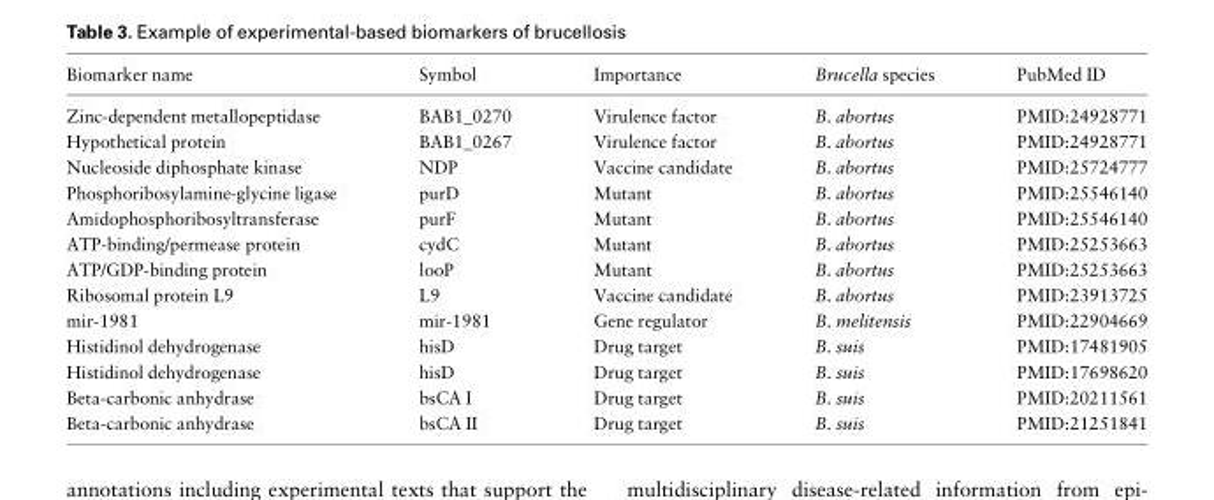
<table><thead><tr><td>Biomarker name</td><td>Symbol</td><td>Importance</td><td>Brucella species</td><td>PubMed ID</td></tr></thead><tbody><tr><td>Zinc-dependent metallopeptidase</td><td>BAB1_0270</td><td>Virulence factor</td><td>B. abortus</td><td>PMID:24928771</td></tr><tr><td>Hypothetical protein</td><td>BAB1_0267</td><td>Virulence factor</td><td>B. abortus</td><td>PMID:24928771</td></tr><tr><td>Nucleoside diphosphate kinase</td><td>NDP</td><td>Vaccine candidate</td><td>B. abortus</td><td>PMID:25724777</td></tr><tr><td>Phosphoribosylamine-glycine ligase</td><td>purD</td><td>Mutant</td><td>B. abortus</td><td>PMID:25546140</td></tr><tr><td>Amidophosphoribosyltransferase</td><td>purF</td><td>Mutant</td><td>B. abortus</td><td>PMID:25546140</td></tr><tr><td>ATP-binding/permease protein</td><td>cydC</td><td>Mutant</td><td>B. abortus</td><td>PMID:25253663</td></tr><tr><td>ATP/GDP-binding protein</td><td>looP</td><td>Mutant</td><td>B. abortus</td><td>PMID:25253663</td></tr><tr><td>Ribosomal protein L9</td><td>L9</td><td>Vaccine candidate</td><td>B. abortus</td><td>PMID:23913725</td></tr><tr><td>mir-1981</td><td>mir-1981</td><td>Gene regulator</td><td>B. melitensis</td><td>PMID:22904669</td></tr><tr><td>Histidinol dehydrogenase</td><td>hisD</td><td>Drug target</td><td>B. suis</td><td>PMID:17481905</td></tr><tr><td>Histidinol dehydrogenase</td><td>hisD</td><td>Drug target</td><td>B. suis</td><td>PMID:17698620</td></tr><tr><td>Beta-carbonic anhydrase</td><td>bsCA I</td><td>Drug target</td><td>B. suis</td><td>PMID:20211561</td></tr><tr><td>Beta-carbonic anhydrase</td><td>bsCA II</td><td>Drug target</td><td>B. suis</td><td>PMID:21251841</td></tr></tbody></table>